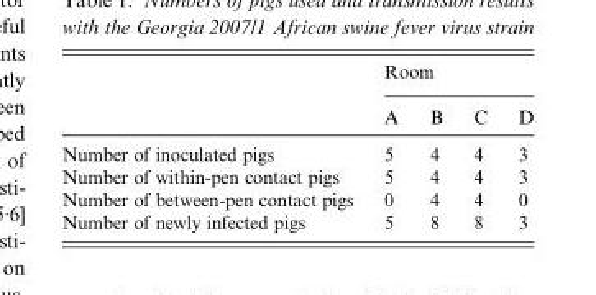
<table><thead><tr><td rowspan="2"></td><td colspan="4">Room</td></tr><tr><td>A</td><td>B</td><td>C</td><td>D</td></tr></thead><tbody><tr><td>Number of inoculated pigs</td><td>5</td><td>4</td><td>4</td><td>3</td></tr><tr><td>Number of within-pen contact pigs</td><td>5</td><td>4</td><td>4</td><td>3</td></tr><tr><td>Number of between-pen contact pigs</td><td>0</td><td>4</td><td>4</td><td>0</td></tr><tr><td>Number of newly infected pigs</td><td>5</td><td>8</td><td>8</td><td>3</td></tr></tbody></table>